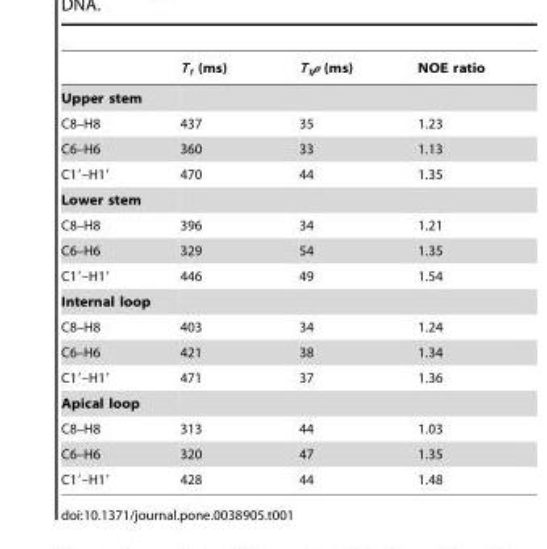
<table><thead><tr><td></td><td>T<sub>1</sub> (ms)</td><td>T<sub>1</sub>ρ (ms)</td><td>NOE ratio</td></tr></thead><tbody><tr><td colspan="4">Upper stem</td></tr><tr><td>C8–H8</td><td>437</td><td>35</td><td>1.23</td></tr><tr><td>C6–H6</td><td>360</td><td>33</td><td>1.13</td></tr><tr><td>C1′–H1′</td><td>470</td><td>44</td><td>1.35</td></tr><tr><td colspan="4">Lower stem</td></tr><tr><td>C8–H8</td><td>396</td><td>34</td><td>1.21</td></tr><tr><td>C6–H6</td><td>329</td><td>54</td><td>1.35</td></tr><tr><td>C1′–H1′</td><td>446</td><td>49</td><td>1.54</td></tr><tr><td colspan="4">Internal loop</td></tr><tr><td>C8–H8</td><td>403</td><td>34</td><td>1.24</td></tr><tr><td>C6–H6</td><td>421</td><td>38</td><td>1.34</td></tr><tr><td>C1′–H1′</td><td>471</td><td>37</td><td>1.36</td></tr><tr><td colspan="4">Apical loop</td></tr><tr><td>C8–H8</td><td>313</td><td>44</td><td>1.03</td></tr><tr><td>C6–H6</td><td>320</td><td>47</td><td>1.35</td></tr><tr><td>C1′–H1′</td><td>428</td><td>44</td><td>1.48</td></tr></tbody></table>